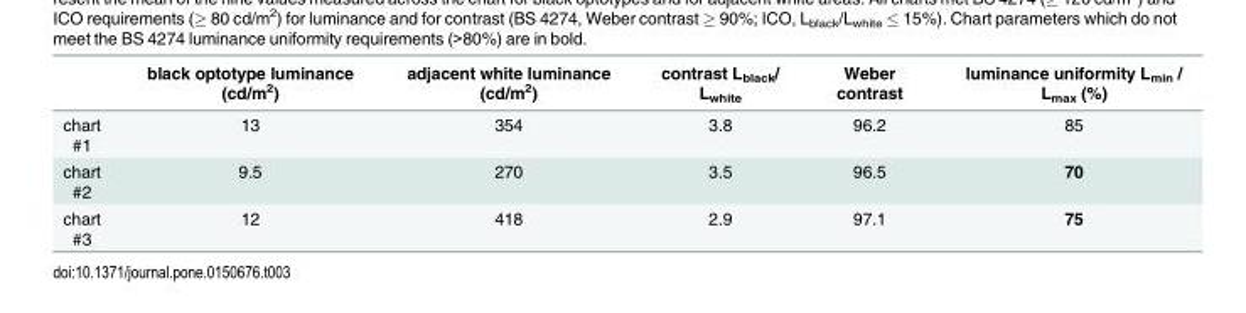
<table><thead><tr><td></td><td>black optotype luminance (cd/m<sup>2</sup>)</td><td>adjacent white luminance (cd/m<sup>2</sup>)</td><td>contrast L<sub>black</sub>/ L<sub>white</sub></td><td>Weber contrast</td><td>luminance uniformity L<sub>min</sub> / L<sub>max</sub> (%)</td></tr></thead><tbody><tr><td>chart #1</td><td>13</td><td>354</td><td>3.8</td><td>96.2</td><td>85</td></tr><tr><td>chart #2</td><td>9.5</td><td>270</td><td>3.5</td><td>96.5</td><td>70</td></tr><tr><td>chart #3</td><td>12</td><td>418</td><td>2.9</td><td>97.1</td><td>75</td></tr></tbody></table>